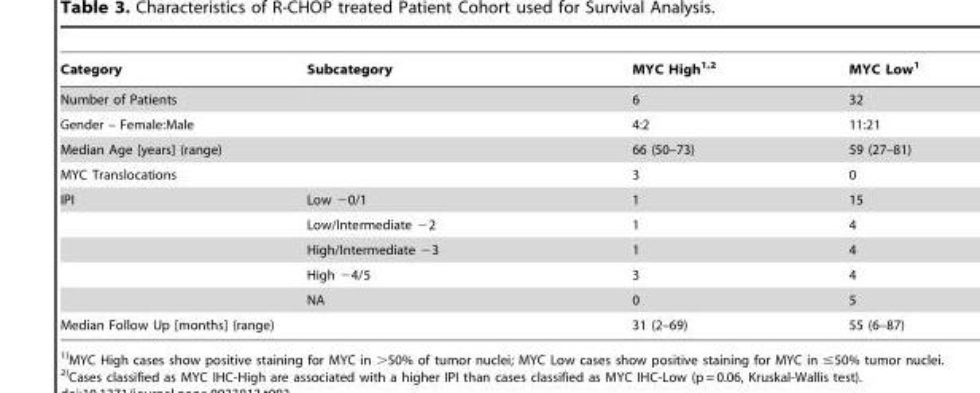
<table><thead><tr><td>Category</td><td>Subcategory</td><td>MYC High<sup>1,</sup>2</td><td>MYC Low<sup>1</sup></td></tr></thead><tbody><tr><td>Number of Patients</td><td></td><td>6</td><td>32</td></tr><tr><td>Gender – Female:Male</td><td></td><td>4:2</td><td>11:21</td></tr><tr><td>Median Age [years] (range)</td><td></td><td>66 (50–73)</td><td>59 (27–81)</td></tr><tr><td>MYC Translocations</td><td></td><td>3</td><td>0</td></tr><tr><td rowspan="5">IPI</td><td>Low −0/1</td><td>1</td><td>15</td></tr><tr><td>Low/Intermediate −2</td><td>1</td><td>4</td></tr><tr><td>High/Intermediate −3</td><td>1</td><td>4</td></tr><tr><td>High −4/5</td><td>3</td><td>4</td></tr><tr><td>NA</td><td>0</td><td>5</td></tr><tr><td>Median Follow Up [months] (range)</td><td></td><td>31 (2–69)</td><td>55 (6–87)</td></tr></tbody></table>